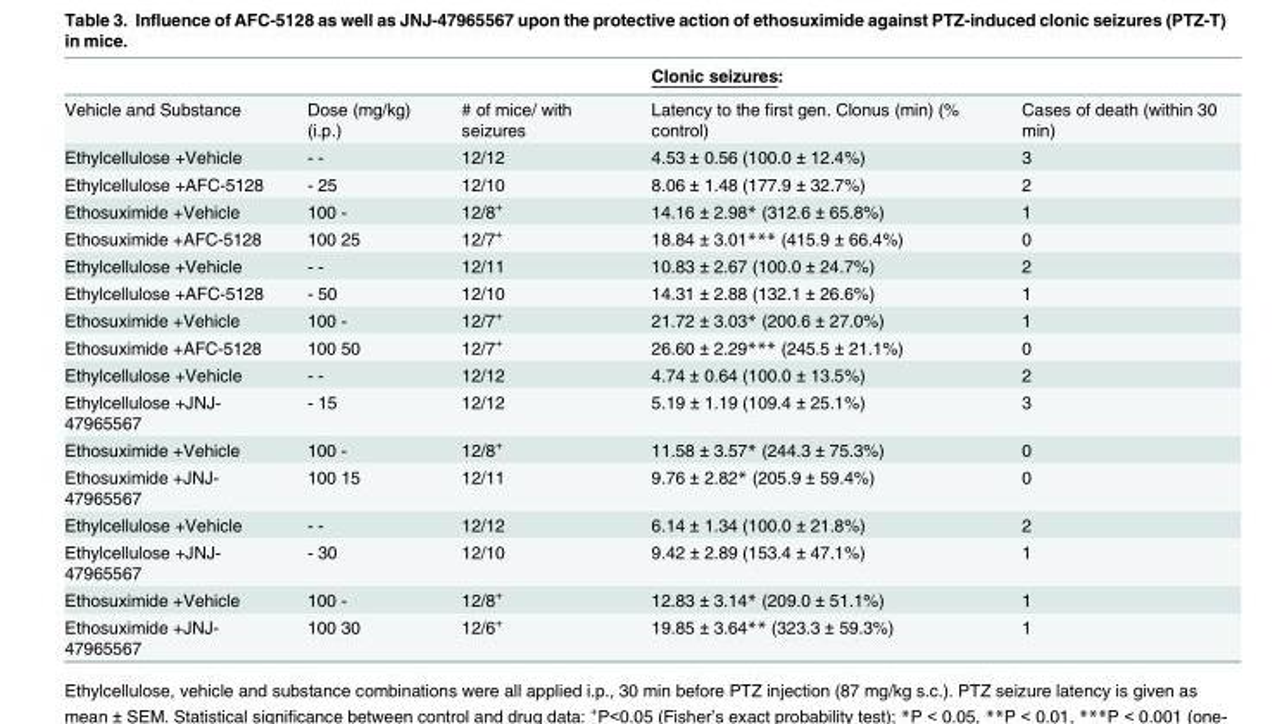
<table><thead><tr><td></td><td></td><td></td><td>Clonic seizures:</td><td></td></tr></thead><tbody><tr><td>Vehicle and Substance</td><td>Dose (mg/kg) (i.p.)</td><td># of mice/ with seizures</td><td>Latency to the first gen. Clonus (min) (% control)</td><td>Cases of death (within 30 min)</td></tr><tr><td>Ethylcellulose +Vehicle</td><td>- -</td><td>12/12</td><td>4.53 ± 0.56 (100.0 ± 12.4%)</td><td>3</td></tr><tr><td>Ethylcellulose +AFC-5128</td><td>- 25</td><td>12/10</td><td>8.06 ± 1.48 (177.9 ± 32.7%)</td><td>2</td></tr><tr><td>Ethosuximide +Vehicle</td><td>100 -</td><td>12/8<sup>+</sup></td><td>14.16 ± 2.98* (312.6 ± 65.8%)</td><td>1</td></tr><tr><td>Ethosuximide +AFC-5128</td><td>100 25</td><td>12/7<sup>+</sup></td><td>18.84 ± 3.01*** (415.9 ± 66.4%)</td><td>0</td></tr><tr><td>Ethylcellulose +Vehicle</td><td>- -</td><td>12/11</td><td>10.83 ± 2.67 (100.0 ± 24.7%)</td><td>2</td></tr><tr><td>Ethylcellulose +AFC-5128</td><td>- 50</td><td>12/10</td><td>14.31 ± 2.88 (132.1 ± 26.6%)</td><td>1</td></tr><tr><td>Ethosuximide +Vehicle</td><td>100 -</td><td>12/7<sup>+</sup></td><td>21.72 ± 3.03* (200.6 ± 27.0%)</td><td>1</td></tr><tr><td>Ethosuximide +AFC-5128</td><td>100 50</td><td>12/7<sup>+</sup></td><td>26.60 ± 2.29*** (245.5 ± 21.1%)</td><td>0</td></tr><tr><td>Ethylcellulose +Vehicle</td><td>- -</td><td>12/12</td><td>4.74 ± 0.64 (100.0 ± 13.5%)</td><td>2</td></tr><tr><td>Ethylcellulose +JNJ- 47965567</td><td>- 15</td><td>12/12</td><td>5.19 ± 1.19 (109.4 ± 25.1%)</td><td>3</td></tr><tr><td>Ethosuximide +Vehicle</td><td>100 -</td><td>12/8<sup>+</sup></td><td>11.58 ± 3.57* (244.3 ± 75.3%)</td><td>0</td></tr><tr><td>Ethosuximide +JNJ- 47965567</td><td>100 15</td><td>12/11</td><td>9.76 ± 2.82* (205.9 ± 59.4%)</td><td>0</td></tr><tr><td>Ethylcellulose +Vehicle</td><td>- -</td><td>12/12</td><td>6.14 ± 1.34 (100.0 ± 21.8%)</td><td>2</td></tr><tr><td>Ethylcellulose +JNJ- 47965567</td><td>- 30</td><td>12/10</td><td>9.42 ± 2.89 (153.4 ± 47.1%)</td><td>1</td></tr><tr><td>Ethosuximide +Vehicle</td><td>100 -</td><td>12/8<sup>+</sup></td><td>12.83 ± 3.14* (209.0 ± 51.1%)</td><td>1</td></tr><tr><td>Ethosuximide +JNJ- 47965567</td><td>100 30</td><td>12/6<sup>+</sup></td><td>19.85 ± 3.64** (323.3 ± 59.3%)</td><td>1</td></tr></tbody></table>